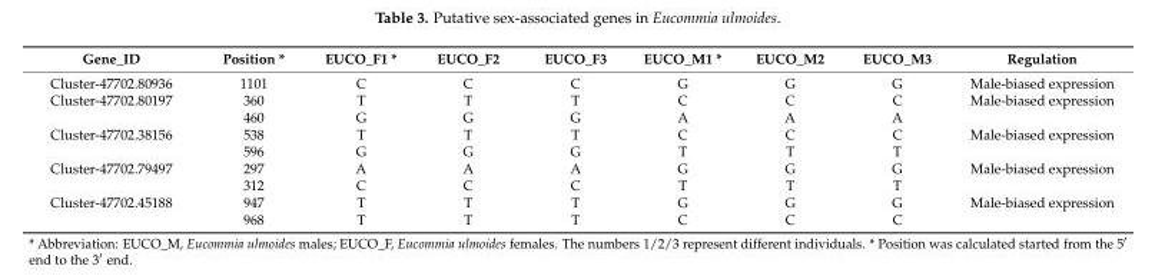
<table><thead><tr><td>Gene_ID</td><td>Position *</td><td>EUCO_F1 *</td><td>EUCO_F2</td><td>EUCO_F3</td><td>EUCO_M1 *</td><td>EUCO_M2</td><td>EUCO_M3</td><td>Regulation</td></tr></thead><tbody><tr><td>Cluster-47702.80936</td><td>1101</td><td>C</td><td>C</td><td>C</td><td>G</td><td>G</td><td>G</td><td>Male-biased expression</td></tr><tr><td rowspan="2">Cluster-47702.80197</td><td>360</td><td>T</td><td>T</td><td>T</td><td>C</td><td>C</td><td>C</td><td>Male-biased expression</td></tr><tr><td>460</td><td>G</td><td>G</td><td>G</td><td>A</td><td>A</td><td>A</td><td></td></tr><tr><td rowspan="2">Cluster-47702.38156</td><td>538</td><td>T</td><td>T</td><td>T</td><td>C</td><td>C</td><td>C</td><td>Male-biased expression</td></tr><tr><td>596</td><td>G</td><td>G</td><td>G</td><td>T</td><td>T</td><td>T</td><td></td></tr><tr><td rowspan="2">Cluster-47702.79497</td><td>297</td><td>A</td><td>A</td><td>A</td><td>G</td><td>G</td><td>G</td><td>Male-biased expression</td></tr><tr><td>312</td><td>C</td><td>C</td><td>C</td><td>T</td><td>T</td><td>T</td><td></td></tr><tr><td rowspan="2">Cluster-47702.45188</td><td>947</td><td>T</td><td>T</td><td>T</td><td>G</td><td>G</td><td>G</td><td>Male-biased expression</td></tr><tr><td>968</td><td>T</td><td>T</td><td>T</td><td>C</td><td>C</td><td>C</td><td></td></tr></tbody></table>